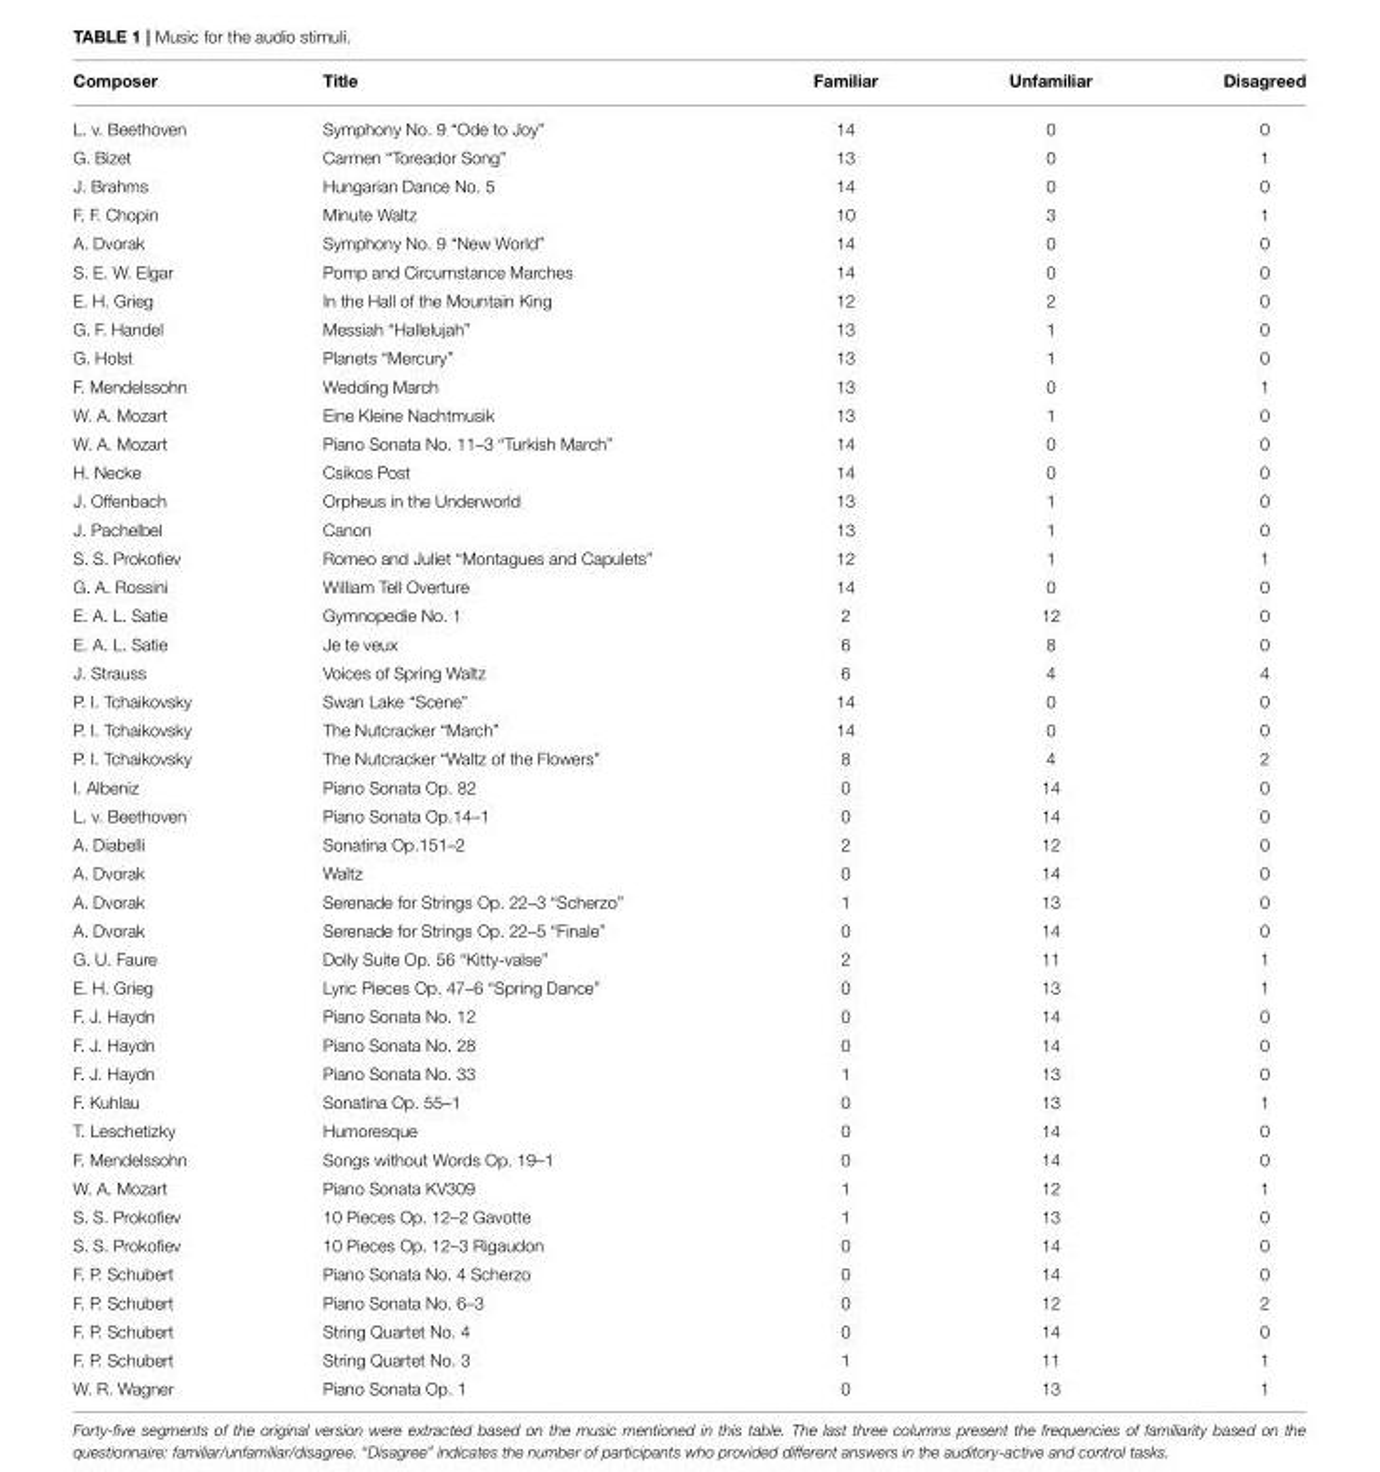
<table><thead><tr><td>Composer</td><td>Title</td><td>Familiar</td><td>Unfamiliar</td><td>Disagreed</td></tr></thead><tbody><tr><td>L. v. Beethoven</td><td>Symphony No. 9 “Ode to Joy”</td><td>14</td><td>0</td><td>0</td></tr><tr><td>G. Bizet</td><td>Carmen “Toreador Song”</td><td>13</td><td>0</td><td>1</td></tr><tr><td>J. Brahms</td><td>Hungarian Dance No. 5</td><td>14</td><td>0</td><td>0</td></tr><tr><td>F. F. Chopin</td><td>Minute Waltz</td><td>10</td><td>3</td><td>1</td></tr><tr><td>A. Dvorak</td><td>Symphony No. 9 “New World”</td><td>14</td><td>0</td><td>0</td></tr><tr><td>S. E. W. Elgar</td><td>Pomp and Circumstance Marches</td><td>14</td><td>0</td><td>0</td></tr><tr><td>E. H. Grieg</td><td>In the Hall of the Mountain King</td><td>12</td><td>2</td><td>0</td></tr><tr><td>G. F. Handel</td><td>Messiah “Hallelujah”</td><td>13</td><td>1</td><td>0</td></tr><tr><td>G. Holst</td><td>Planets “Mercury”</td><td>13</td><td>1</td><td>0</td></tr><tr><td>F. Mendelssohn</td><td>Wedding March</td><td>13</td><td>0</td><td>1</td></tr><tr><td>W. A. Mozart</td><td>Eine Kleine Nachtmusik</td><td>13</td><td>1</td><td>0</td></tr><tr><td>W. A. Mozart</td><td>Piano Sonata No. 11–3 “Turkish March”</td><td>14</td><td>0</td><td>0</td></tr><tr><td>H. Necke</td><td>Csikos Post</td><td>14</td><td>0</td><td>0</td></tr><tr><td>J. Offenbach</td><td>Orpheus in the Underworld</td><td>13</td><td>1</td><td>0</td></tr><tr><td>J. Pachelbel</td><td>Canon</td><td>13</td><td>1</td><td>0</td></tr><tr><td>S. S. Prokofiev</td><td>Romeo and Juliet “Montagues and Capulets”</td><td>12</td><td>1</td><td>1</td></tr><tr><td>G. A. Rossini</td><td>William Tell Overture</td><td>14</td><td>0</td><td>0</td></tr><tr><td>E. A. L. Satie</td><td>Gymnopedie No. 1</td><td>2</td><td>12</td><td>0</td></tr><tr><td>E. A. L. Satie</td><td>Je te veux</td><td>6</td><td>8</td><td>0</td></tr><tr><td>J. Strauss</td><td>Voices of Spring Waltz</td><td>6</td><td>4</td><td>4</td></tr><tr><td>P. I. Tchaikovsky</td><td>Swan Lake “Scene”</td><td>14</td><td>0</td><td>0</td></tr><tr><td>P. I. Tchaikovsky</td><td>The Nutcracker “March”</td><td>14</td><td>0</td><td>0</td></tr><tr><td>P. I. Tchaikovsky</td><td>The Nutcracker “Waltz of the Flowers”</td><td>8</td><td>4</td><td>2</td></tr><tr><td>I. Albeniz</td><td>Piano Sonata Op. 82</td><td>0</td><td>14</td><td>0</td></tr><tr><td>L. v. Beethoven</td><td>Piano Sonata Op.14–1</td><td>0</td><td>14</td><td>0</td></tr><tr><td>A. Diabelli</td><td>Sonatina Op.151–2</td><td>2</td><td>12</td><td>0</td></tr><tr><td>A. Dvorak</td><td>Waltz</td><td>0</td><td>14</td><td>0</td></tr><tr><td>A. Dvorak</td><td>Serenade for Strings Op. 22–3 “Scherzo”</td><td>1</td><td>13</td><td>0</td></tr><tr><td>A. Dvorak</td><td>Serenade for Strings Op. 22–5 “Finale”</td><td>0</td><td>14</td><td>0</td></tr><tr><td>G. U. Faure</td><td>Dolly Suite Op. 56 “Kitty-valse”</td><td>2</td><td>11</td><td>1</td></tr><tr><td>E. H. Grieg</td><td>Lyric Pieces Op. 47–6 “Spring Dance”</td><td>0</td><td>13</td><td>1</td></tr><tr><td>F. J. Haydn</td><td>Piano Sonata No. 12</td><td>0</td><td>14</td><td>0</td></tr><tr><td>F. J. Haydn</td><td>Piano Sonata No. 28</td><td>0</td><td>14</td><td>0</td></tr><tr><td>F. J. Haydn</td><td>Piano Sonata No. 33</td><td>1</td><td>13</td><td>0</td></tr><tr><td>F. Kuhlau</td><td>Sonatina Op. 55–1</td><td>0</td><td>13</td><td>1</td></tr><tr><td>T. Leschetizky</td><td>Humoresque</td><td>0</td><td>14</td><td>0</td></tr><tr><td>F. Mendelssohn</td><td>Songs without Words Op. 19–1</td><td>0</td><td>14</td><td>0</td></tr><tr><td>W. A. Mozart</td><td>Piano Sonata KV309</td><td>1</td><td>12</td><td>1</td></tr><tr><td>S. S. Prokofiev</td><td>10 Pieces Op. 12–2 Gavotte</td><td>1</td><td>13</td><td>0</td></tr><tr><td>S. S. Prokofiev</td><td>10 Pieces Op. 12–3 Rigaudon</td><td>0</td><td>14</td><td>0</td></tr><tr><td>F. P. Schubert</td><td>Piano Sonata No. 4 Scherzo</td><td>0</td><td>14</td><td>0</td></tr><tr><td>F. P. Schubert</td><td>Piano Sonata No. 6–3</td><td>0</td><td>12</td><td>2</td></tr><tr><td>F. P. Schubert</td><td>String Quartet No. 4</td><td>0</td><td>14</td><td>0</td></tr><tr><td>F. P. Schubert</td><td>String Quartet No. 3</td><td>1</td><td>11</td><td>1</td></tr><tr><td>W. R. Wagner</td><td>Piano Sonata Op. 1</td><td>0</td><td>13</td><td>1</td></tr></tbody></table>